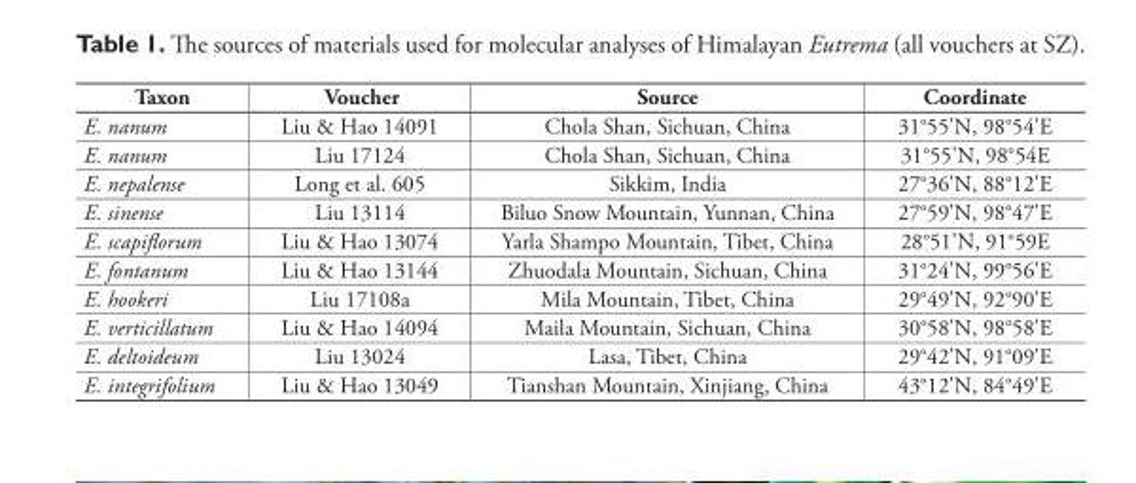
<table><thead><tr><td>Taxon</td><td>Voucher</td><td>Source</td><td>Coordinate</td></tr></thead><tbody><tr><td>E. nanum</td><td>Liu &amp; Hao 14091</td><td>Chola Shan, Sichuan, China</td><td>31°55&#x27;N, 98°54&#x27;E</td></tr><tr><td>E. nanum</td><td>Liu 17124</td><td>Chola Shan, Sichuan, China</td><td>31°55&#x27;N, 98°54E</td></tr><tr><td>E. nepalense</td><td>Long et al. 605</td><td>Sikkim, India</td><td>27°36&#x27;N, 88°12&#x27;E</td></tr><tr><td>E. sinense</td><td>Liu 13114</td><td>Biluo Snow Mountain, Yunnan, China</td><td>27°59&#x27;N, 98°47&#x27;E</td></tr><tr><td>E. scapiflorum</td><td>Liu &amp; Hao 13074</td><td>Yarla Shampo Mountain, Tibet, China</td><td>28°51&#x27;N, 91°59E</td></tr><tr><td>E. fontanum</td><td>Liu &amp; Hao 13144</td><td>Zhuodala Mountain, Sichuan, China</td><td>31°24&#x27;N, 99°56&#x27;E</td></tr><tr><td>E. hookeri</td><td>Liu 17108a</td><td>Mila Mountain, Tibet, China</td><td>29°49&#x27;N, 92°90&#x27;E</td></tr><tr><td>E. verticillatum</td><td>Liu &amp; Hao 14094</td><td>Maila Mountain, Sichuan, China</td><td>30°58&#x27;N, 98°58&#x27;E</td></tr><tr><td>E. deltoideum</td><td>Liu 13024</td><td>Lasa, Tibet, China</td><td>29°42&#x27;N, 91°09&#x27;E</td></tr><tr><td>E. integrifolium</td><td>Liu &amp; Hao 13049</td><td>Tianshan Mountain, Xinjiang, China</td><td>43°12&#x27;N, 84°49&#x27;E</td></tr></tbody></table>